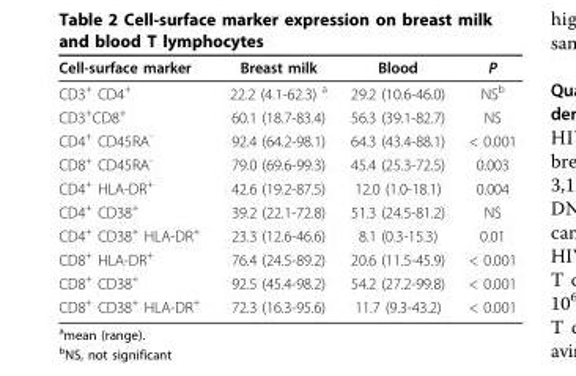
<table><thead><tr><td>Cell-surface marker</td><td>Breast milk</td><td>Blood</td><td>P</td></tr></thead><tbody><tr><td>CD3<sup>+</sup> CD4<sup>+</sup></td><td>22.2 (4.1-62.3) <sup>a</sup></td><td>29.2 (10.6-46.0)</td><td>NS<sup>b</sup></td></tr><tr><td>CD3<sup>+</sup>CD8<sup>+</sup></td><td>60.1 (18.7-83.4)</td><td>56.3 (39.1-82.7)</td><td>NS</td></tr><tr><td>CD4<sup>+</sup> CD45RA<sup>-</sup></td><td>92.4 (64.2-98.1)</td><td>64.3 (43.4-88.1)</td><td>&lt; 0.001</td></tr><tr><td>CD8<sup>+</sup> CD45RA<sup>-</sup></td><td>79.0 (69.6-99.3)</td><td>45.4 (25.3-72.5)</td><td>0.003</td></tr><tr><td>CD4<sup>+</sup> HLA-DR<sup>+</sup></td><td>42.6 (19.2-87.5)</td><td>12.0 (1.0-18.1)</td><td>0.004</td></tr><tr><td>CD4<sup>+</sup> CD38<sup>+</sup></td><td>39.2 (22.1-72.8)</td><td>51.3 (24.5-81.2)</td><td>NS</td></tr><tr><td>CD4<sup>+</sup> CD38<sup>+</sup> HLA-DR<sup>+</sup></td><td>23.3 (12.6-46.6)</td><td>8.1 (0.3-15.3)</td><td>0.01</td></tr><tr><td>CD8<sup>+</sup> HLA-DR<sup>+</sup></td><td>76.4 (24.5-89.2)</td><td>20.6 (11.5-45.9)</td><td>&lt; 0.001</td></tr><tr><td>CD8<sup>+</sup> CD38<sup>+</sup></td><td>92.5 (45.4-98.2)</td><td>54.2 (27.2-99.8)</td><td>&lt; 0.001</td></tr><tr><td>CD8<sup>+</sup> CD38<sup>+</sup> HLA-DR<sup>+</sup></td><td>72.3 (16.3-95.6)</td><td>11.7 (9.3-43.2)</td><td>&lt; 0.001</td></tr></tbody></table>